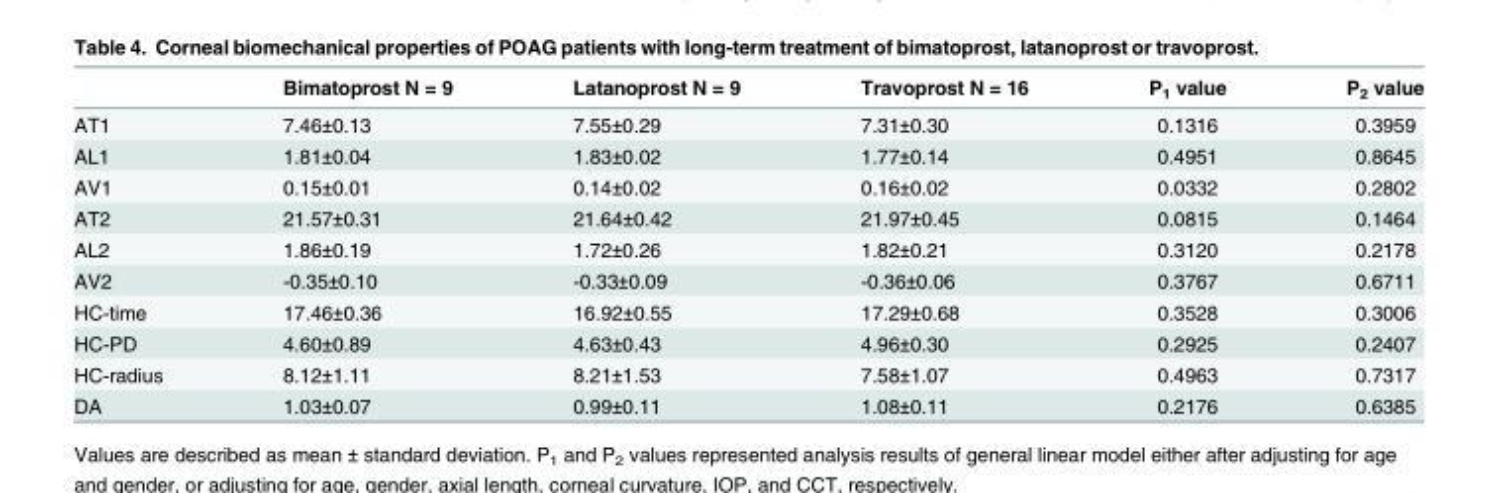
<table><thead><tr><td></td><td>Bimatoprost N = 9</td><td>Latanoprost N = 9</td><td>Travoprost N = 16</td><td>P<sub>1</sub> value</td><td>P<sub>2</sub> value</td></tr></thead><tbody><tr><td>AT1</td><td>7.46±0.13</td><td>7.55±0.29</td><td>7.31±0.30</td><td>0.1316</td><td>0.3959</td></tr><tr><td>AL1</td><td>1.81±0.04</td><td>1.83±0.02</td><td>1.77±0.14</td><td>0.4951</td><td>0.8645</td></tr><tr><td>AV1</td><td>0.15±0.01</td><td>0.14±0.02</td><td>0.16±0.02</td><td>0.0332</td><td>0.2802</td></tr><tr><td>AT2</td><td>21.57±0.31</td><td>21.64±0.42</td><td>21.97±0.45</td><td>0.0815</td><td>0.1464</td></tr><tr><td>AL2</td><td>1.86±0.19</td><td>1.72±0.26</td><td>1.82±0.21</td><td>0.3120</td><td>0.2178</td></tr><tr><td>AV2</td><td>-0.35±0.10</td><td>-0.33±0.09</td><td>-0.36±0.06</td><td>0.3767</td><td>0.6711</td></tr><tr><td>HC-time</td><td>17.46±0.36</td><td>16.92±0.55</td><td>17.29±0.68</td><td>0.3528</td><td>0.3006</td></tr><tr><td>HC-PD</td><td>4.60±0.89</td><td>4.63±0.43</td><td>4.96±0.30</td><td>0.2925</td><td>0.2407</td></tr><tr><td>HC-radius</td><td>8.12±1.11</td><td>8.21±1.53</td><td>7.58±1.07</td><td>0.4963</td><td>0.7317</td></tr><tr><td>DA</td><td>1.03±0.07</td><td>0.99±0.11</td><td>1.08±0.11</td><td>0.2176</td><td>0.6385</td></tr></tbody></table>